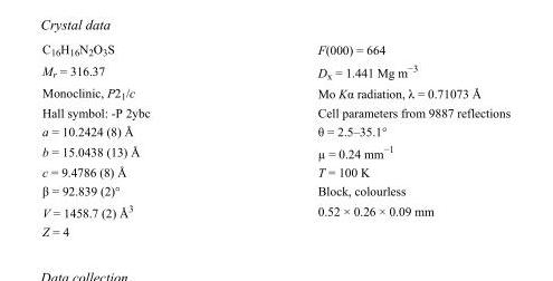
<table><tbody><tr><td>C<sub>16</sub>H<sub>16</sub>N<sub>2</sub>O<sub>3</sub>S</td><td>F(000) = 664</td></tr><tr><td>M<sub>r</sub> = 316.37</td><td>D<sub>x</sub> = 1.441 Mg m<sup>−3</sup></td></tr><tr><td>Monoclinic, P2<sub>1</sub>/c</td><td>Mo Kα radiation, λ = 0.71073 Å</td></tr><tr><td>Hall symbol: -P 2ybc</td><td>Cell parameters from 9887 reflections</td></tr><tr><td>a = 10.2424 (8) Å</td><td>θ = 2.5–35.1°</td></tr><tr><td>b = 15.0438 (13) Å</td><td>µ = 0.24 mm<sup>−1</sup></td></tr><tr><td>c = 9.4786 (8) Å</td><td>T = 100 K</td></tr><tr><td>β = 92.839 (2)°</td><td>Block, colourless</td></tr><tr><td>V = 1458.7 (2) Å<sup>3</sup></td><td>0.52 × 0.26 × 0.09 mm</td></tr><tr><td>Z = 4</td><td></td></tr></tbody></table>